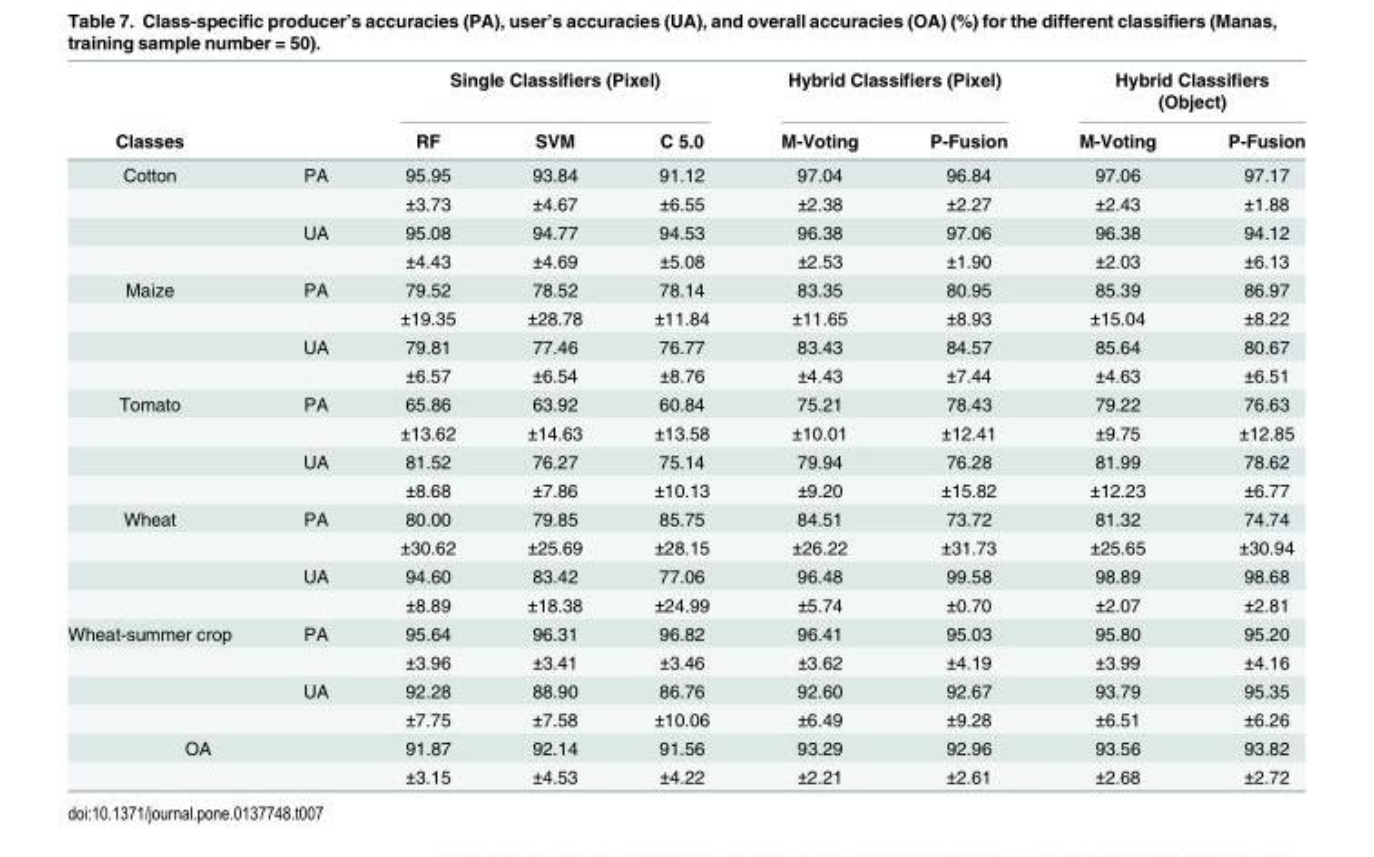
<table><thead><tr><td rowspan="2">Classes</td><td rowspan="2"></td><td colspan="3">Single Classifiers (Pixel)</td><td colspan="2">Hybrid Classifiers (Pixel)</td><td colspan="2">Hybrid Classifiers (Object)</td></tr><tr><td>RF</td><td>SVM</td><td>C 5.0</td><td>M-Voting</td><td>P-Fusion</td><td>M-Voting</td><td>P-Fusion</td></tr></thead><tbody><tr><td rowspan="4">Cotton</td><td>PA</td><td>95.95</td><td>93.84</td><td>91.12</td><td>97.04</td><td>96.84</td><td>97.06</td><td>97.17</td></tr><tr><td></td><td>±3.73</td><td>±4.67</td><td>±6.55</td><td>±2.38</td><td>±2.27</td><td>±2.43</td><td>±1.88</td></tr><tr><td>UA</td><td>95.08</td><td>94.77</td><td>94.53</td><td>96.38</td><td>97.06</td><td>96.38</td><td>94.12</td></tr><tr><td></td><td>±4.43</td><td>±4.69</td><td>±5.08</td><td>±2.53</td><td>±1.90</td><td>±2.03</td><td>±6.13</td></tr><tr><td rowspan="4">Maize</td><td>PA</td><td>79.52</td><td>78.52</td><td>78.14</td><td>83.35</td><td>80.95</td><td>85.39</td><td>86.97</td></tr><tr><td></td><td>±19.35</td><td>±28.78</td><td>±11.84</td><td>±11.65</td><td>±8.93</td><td>±15.04</td><td>±8.22</td></tr><tr><td>UA</td><td>79.81</td><td>77.46</td><td>76.77</td><td>83.43</td><td>84.57</td><td>85.64</td><td>80.67</td></tr><tr><td></td><td>±6.57</td><td>±6.54</td><td>±8.76</td><td>±4.43</td><td>±7.44</td><td>±4.63</td><td>±6.51</td></tr><tr><td rowspan="4">Tomato</td><td>PA</td><td>65.86</td><td>63.92</td><td>60.84</td><td>75.21</td><td>78.43</td><td>79.22</td><td>76.63</td></tr><tr><td></td><td>±13.62</td><td>±14.63</td><td>±13.58</td><td>±10.01</td><td>±12.41</td><td>±9.75</td><td>±12.85</td></tr><tr><td>UA</td><td>81.52</td><td>76.27</td><td>75.14</td><td>79.94</td><td>76.28</td><td>81.99</td><td>78.62</td></tr><tr><td></td><td>±8.68</td><td>±7.86</td><td>±10.13</td><td>±9.20</td><td>±15.82</td><td>±12.23</td><td>±6.77</td></tr><tr><td rowspan="4">Wheat</td><td>PA</td><td>80.00</td><td>79.85</td><td>85.75</td><td>84.51</td><td>73.72</td><td>81.32</td><td>74.74</td></tr><tr><td></td><td>±30.62</td><td>±25.69</td><td>±28.15</td><td>±26.22</td><td>±31.73</td><td>±25.65</td><td>±30.94</td></tr><tr><td>UA</td><td>94.60</td><td>83.42</td><td>77.06</td><td>96.48</td><td>99.58</td><td>98.89</td><td>98.68</td></tr><tr><td></td><td>±8.89</td><td>±18.38</td><td>±24.99</td><td>±5.74</td><td>±0.70</td><td>±2.07</td><td>±2.81</td></tr><tr><td rowspan="4">Wheat-summer crop</td><td>PA</td><td>95.64</td><td>96.31</td><td>96.82</td><td>96.41</td><td>95.03</td><td>95.80</td><td>95.20</td></tr><tr><td></td><td>±3.96</td><td>±3.41</td><td>±3.46</td><td>±3.62</td><td>±4.19</td><td>±3.99</td><td>±4.16</td></tr><tr><td>UA</td><td>92.28</td><td>88.90</td><td>86.76</td><td>92.60</td><td>92.67</td><td>93.79</td><td>95.35</td></tr><tr><td></td><td>±7.75</td><td>±7.58</td><td>±10.06</td><td>±6.49</td><td>±9.28</td><td>±6.51</td><td>±6.26</td></tr><tr><td rowspan="2" colspan="2">OA</td><td>91.87</td><td>92.14</td><td>91.56</td><td>93.29</td><td>92.96</td><td>93.56</td><td>93.82</td></tr><tr><td>±3.15</td><td>±4.53</td><td>±4.22</td><td>±2.21</td><td>±2.61</td><td>±2.68</td><td>±2.72</td></tr></tbody></table>